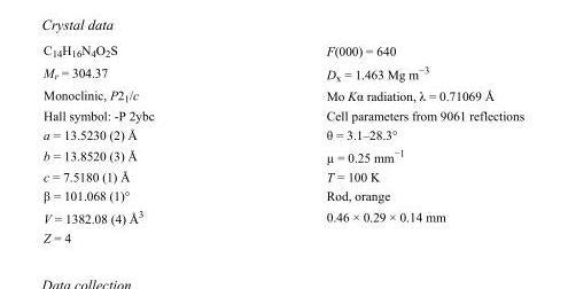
<table><tbody><tr><td>C<sub>14</sub>H<sub>16</sub>N<sub>4</sub>O<sub>2</sub>S</td><td>F(000) = 640</td></tr><tr><td>M<sub>r</sub> = 304.37</td><td>D<sub>x</sub> = 1.463 Mg m<sup>−3</sup></td></tr><tr><td>Monoclinic, P2<sub>1</sub>/c</td><td>Mo Kα radiation, λ = 0.71069 Å</td></tr><tr><td>Hall symbol: -P 2ybc</td><td>Cell parameters from 9061 reflections</td></tr><tr><td>a = 13.5230 (2) Å</td><td>θ = 3.1–28.3°</td></tr><tr><td>b = 13.8520 (3) Å</td><td>µ = 0.25 mm<sup>−1</sup></td></tr><tr><td>c = 7.5180 (1) Å</td><td>T = 100 K</td></tr><tr><td>β = 101.068 (1)°</td><td>Rod, orange</td></tr><tr><td>V = 1382.08 (4) Å<sup>3</sup></td><td>0.46 × 0.29 × 0.14 mm</td></tr><tr><td>Z = 4</td><td></td></tr></tbody></table>